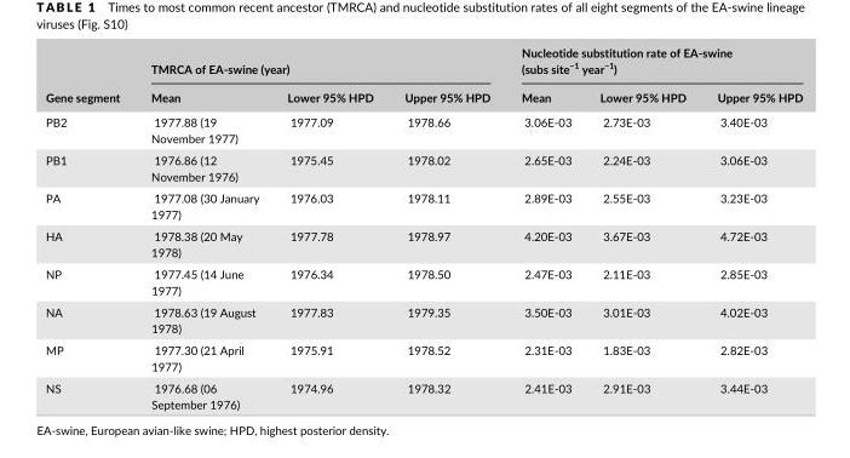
<table><thead><tr><td rowspan="2">Gene segment</td><td colspan="3">TMRCA of EA- swine (year)</td><td colspan="3">Nucleotide substitution rate of EA- swine (subs site<sup>−1</sup> year<sup>−1</sup>)</td></tr><tr><td>Mean</td><td>Lower 95% HPD</td><td>Upper 95% HPD</td><td>Mean</td><td>Lower 95% HPD</td><td>Upper 95% HPD</td></tr></thead><tbody><tr><td>PB2</td><td>1977.88 (19 November 1977)</td><td>1977.09</td><td>1978.66</td><td>3.06E- 03</td><td>2.73E- 03</td><td>3.40E- 03</td></tr><tr><td>PB1</td><td>1976.86 (12 November 1976)</td><td>1975.45</td><td>1978.02</td><td>2.65E- 03</td><td>2.24E- 03</td><td>3.06E- 03</td></tr><tr><td>PA</td><td>1977.08 (30 January 1977)</td><td>1976.03</td><td>1978.11</td><td>2.89E- 03</td><td>2.55E- 03</td><td>3.23E- 03</td></tr><tr><td>HA</td><td>1978.38 (20 May 1978)</td><td>1977.78</td><td>1978.97</td><td>4.20E- 03</td><td>3.67E- 03</td><td>4.72E- 03</td></tr><tr><td>NP</td><td>1977.45 (14 June 1977)</td><td>1976.34</td><td>1978.50</td><td>2.47E- 03</td><td>2.11E- 03</td><td>2.85E- 03</td></tr><tr><td>NA</td><td>1978.63 (19 August 1978)</td><td>1977.83</td><td>1979.35</td><td>3.50E- 03</td><td>3.01E- 03</td><td>4.02E- 03</td></tr><tr><td>MP</td><td>1977.30 (21 April 1977)</td><td>1975.91</td><td>1978.52</td><td>2.31E- 03</td><td>1.83E- 03</td><td>2.82E- 03</td></tr><tr><td>NS</td><td>1976.68 (06 September 1976)</td><td>1974.96</td><td>1978.32</td><td>2.41E- 03</td><td>2.91E- 03</td><td>3.44E- 03</td></tr></tbody></table>